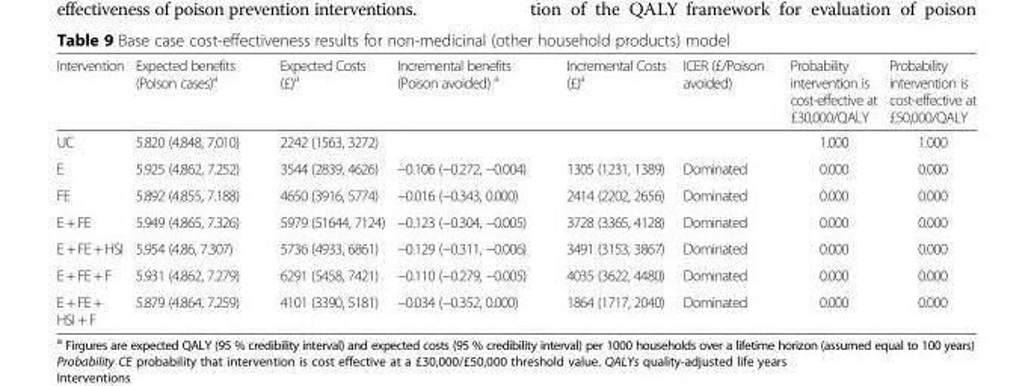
<table><thead><tr><td>Intervention</td><td>Expected benefits (Poison cases)<sup>a</sup></td><td>Expected Costs (£)<sup>a</sup></td><td>Incremental benefits (Poison avoided) <sup>a</sup></td><td>Incremental Costs (£)<sup>a</sup></td><td>ICER (£/Poison avoided)</td><td>Probability intervention is cost-effective at £30,000/QALY</td><td>Probability intervention is cost-effective at £50,000/QALY</td></tr></thead><tbody><tr><td>UC</td><td>5.820 (4.848, 7.010)</td><td>2242 (1563, 3272)</td><td></td><td></td><td></td><td>1.000</td><td>1.000</td></tr><tr><td>E</td><td>5.925 (4.862, 7.252)</td><td>3544 (2839, 4626)</td><td>−0.106 (−0.272, −0.004)</td><td>1305 (1231, 1389)</td><td>Dominated</td><td>0.000</td><td>0.000</td></tr><tr><td>FE</td><td>5.892 (4.855, 7.188)</td><td>4650 (3916, 5774)</td><td>−0.016 (−0.343, 0.000)</td><td>2414 (2202, 2656)</td><td>Dominated</td><td>0.000</td><td>0.000</td></tr><tr><td>E + FE</td><td>5.949 (4.865, 7.326)</td><td>5979 (51644, 7124)</td><td>−0.123 (−0.304, −0.005)</td><td>3728 (3365, 4128)</td><td>Dominated</td><td>0.000</td><td>0.000</td></tr><tr><td>E + FE + HSI</td><td>5.954 (4.86, 7.307)</td><td>5736 (4933, 6861)</td><td>−0.129 (−0.311, −0.006)</td><td>3491 (3153, 3867)</td><td>Dominated</td><td>0.000</td><td>0.000</td></tr><tr><td>E + FE + F</td><td>5.931 (4.862, 7.279)</td><td>6291 (5458, 7421)</td><td>−0.110 (−0.279, −0.005)</td><td>4035 (3622, 4480)</td><td>Dominated</td><td>0.000</td><td>0.000</td></tr><tr><td>E + FE + HSI + F</td><td>5.879 (4.864, 7.259)</td><td>4101 (3390, 5181)</td><td>−0.034 (−0.352, 0.000)</td><td>1864 (1717, 2040)</td><td>Dominated</td><td>0.000</td><td>0.000</td></tr></tbody></table>